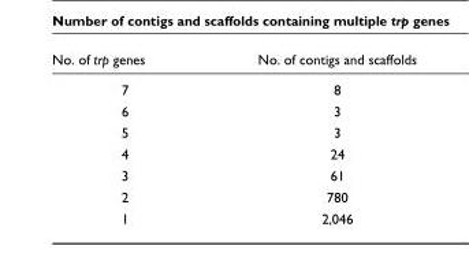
<table><thead><tr><td>No. of trp genes</td><td>No. of contigs and scaffolds</td></tr></thead><tbody><tr><td>7</td><td>8</td></tr><tr><td>6</td><td>3</td></tr><tr><td>5</td><td>3</td></tr><tr><td>4</td><td>24</td></tr><tr><td>3</td><td>61</td></tr><tr><td>2</td><td>780</td></tr><tr><td>1</td><td>2,046</td></tr></tbody></table>